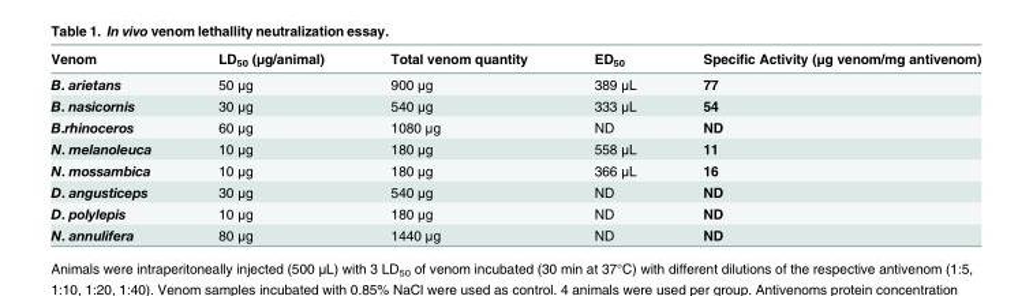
<table><thead><tr><td>Venom</td><td>LD<sub>50</sub> (μg/animal)</td><td>Total venom quantity</td><td>ED<sub>50</sub></td><td>Specific Activity (μg venom/mg antivenom)</td></tr></thead><tbody><tr><td>B. arietans</td><td>50 μg</td><td>900 μg</td><td>389 μL</td><td>77</td></tr><tr><td>B. nasicornis</td><td>30 μg</td><td>540 μg</td><td>333 μL</td><td>54</td></tr><tr><td>B.rhinoceros</td><td>60 μg</td><td>1080 μg</td><td>ND</td><td>ND</td></tr><tr><td>N. melanoleuca</td><td>10 μg</td><td>180 μg</td><td>558 μL</td><td>11</td></tr><tr><td>N. mossambica</td><td>10 μg</td><td>180 μg</td><td>366 μL</td><td>16</td></tr><tr><td>D. angusticeps</td><td>30 μg</td><td>540 μg</td><td>ND</td><td>ND</td></tr><tr><td>D. polylepis</td><td>10 μg</td><td>180 μg</td><td>ND</td><td>ND</td></tr><tr><td>N. annulifera</td><td>80 μg</td><td>1440 μg</td><td>ND</td><td>ND</td></tr></tbody></table>